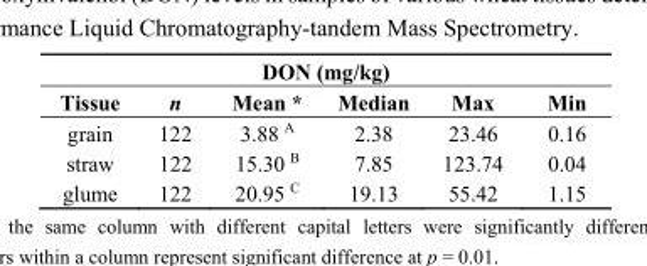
<table><thead><tr><td colspan="6">DON (mg/kg)</td></tr><tr><td>Tissue</td><td>n</td><td>Mean *</td><td>Median</td><td>Max</td><td>Min</td></tr></thead><tbody><tr><td>grain</td><td>122</td><td>3.88 <sup>A</sup></td><td>2.38</td><td>23.46</td><td>0.16</td></tr><tr><td>straw</td><td>122</td><td>15.30 <sup>B</sup></td><td>7.85</td><td>123.74</td><td>0.04</td></tr><tr><td>glume</td><td>122</td><td>20.95 <sup>C</sup></td><td>19.13</td><td>55.42</td><td>1.15</td></tr></tbody></table>